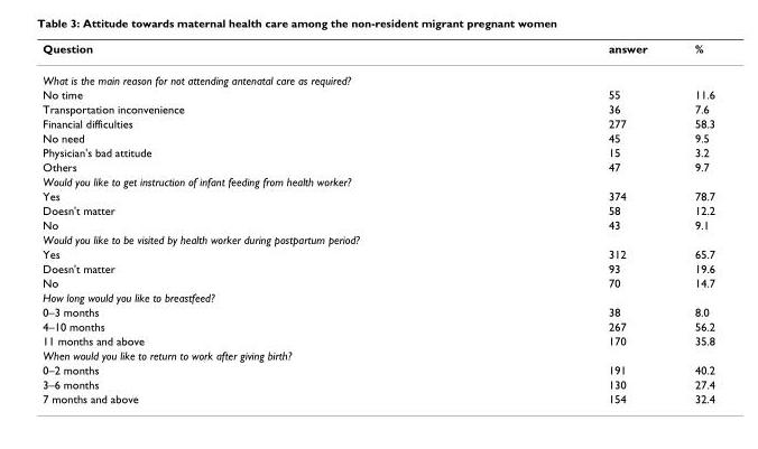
<table><thead><tr><td>Question</td><td>answer</td><td>%</td></tr></thead><tbody><tr><td colspan="3">What is the main reason for not attending antenatal care as required?</td></tr><tr><td>No time</td><td>55</td><td>11.6</td></tr><tr><td>Transportation inconvenience</td><td>36</td><td>7.6</td></tr><tr><td>Financial difficulties</td><td>277</td><td>58.3</td></tr><tr><td>No need</td><td>45</td><td>9.5</td></tr><tr><td>Physician&#x27;s bad attitude</td><td>15</td><td>3.2</td></tr><tr><td>Others</td><td>47</td><td>9.7</td></tr><tr><td colspan="3">Would you like to get instruction of infant feeding from health worker?</td></tr><tr><td>Yes</td><td>374</td><td>78.7</td></tr><tr><td>Doesn&#x27;t matter</td><td>58</td><td>12.2</td></tr><tr><td>No</td><td>43</td><td>9.1</td></tr><tr><td colspan="3">Would you like to be visited by health worker during postpartum period?</td></tr><tr><td>Yes</td><td>312</td><td>65.7</td></tr><tr><td>Doesn&#x27;t matter</td><td>93</td><td>19.6</td></tr><tr><td>No</td><td>70</td><td>14.7</td></tr><tr><td colspan="3">How long would you like to breastfeed?</td></tr><tr><td>0–3 months</td><td>38</td><td>8.0</td></tr><tr><td>4–10 months</td><td>267</td><td>56.2</td></tr><tr><td>11 months and above</td><td>170</td><td>35.8</td></tr><tr><td colspan="3">When would you like to return to work after giving birth?</td></tr><tr><td>0–2 months</td><td>191</td><td>40.2</td></tr><tr><td>3–6 months</td><td>130</td><td>27.4</td></tr><tr><td>7 months and above</td><td>154</td><td>32.4</td></tr></tbody></table>